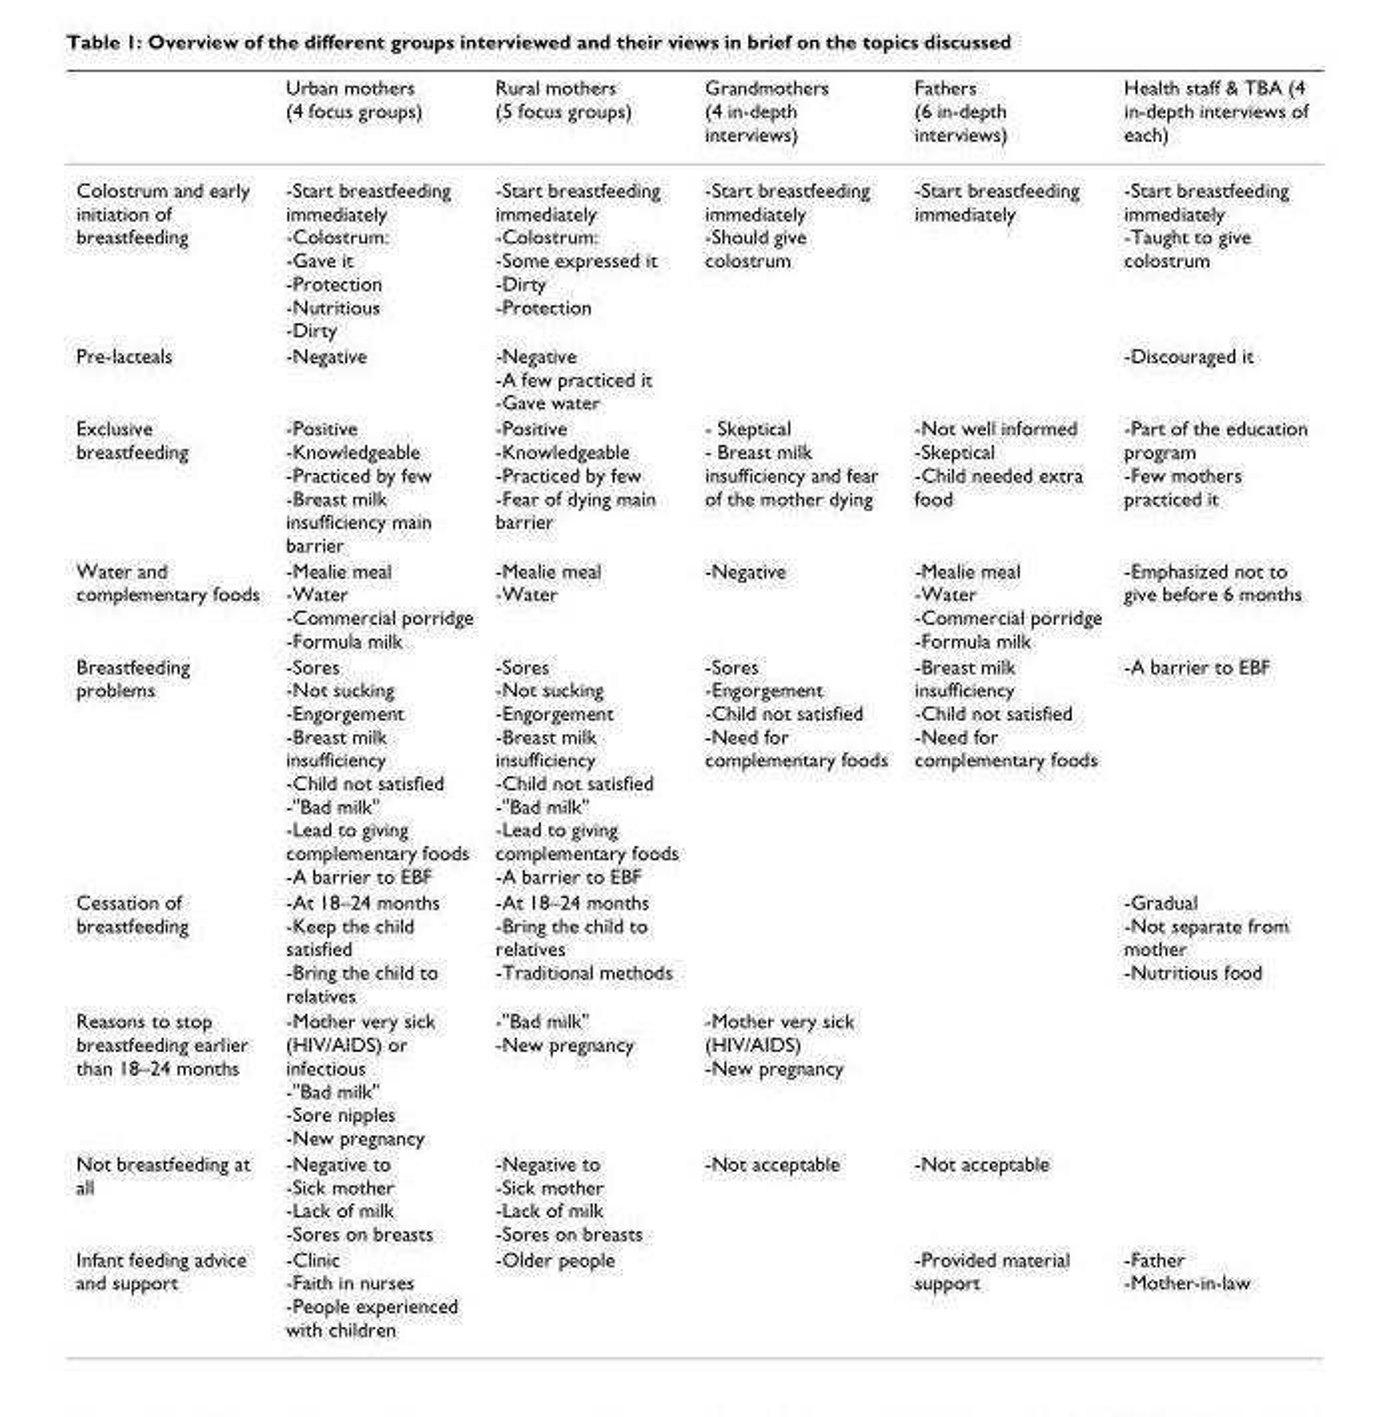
<table><thead><tr><td></td><td>Urban mothers (4 focus groups)</td><td>Rural mothers (5 focus groups)</td><td>Grandmothers (4 in-depth interviews)</td><td>Fathers (6 in-depth interviews)</td><td>Health staff &amp; TBA (4 in-depth interviews of each)</td></tr></thead><tbody><tr><td>Colostrum and early initiation of breastfeeding</td><td>-Start breastfeeding immediately -Colostrum: -Gave it -Protection -Nutritious -Dirty</td><td>-Start breastfeeding immediately -Colostrum: -Some expressed it -Dirty -Protection</td><td>-Start breastfeeding immediately -Should give colostrum</td><td>-Start breastfeeding immediately</td><td>-Start breastfeeding immediately -Taught to give colostrum</td></tr><tr><td>Pre-lacteals</td><td>-Negative</td><td>-Negative -A few practiced it -Gave water</td><td></td><td></td><td>-Discouraged it</td></tr><tr><td>Exclusive breastfeeding</td><td>-Positive -Knowledgeable -Practiced by few -Breast milk insufficiency main barrier</td><td>-Positive -Knowledgeable -Practiced by few -Fear of dying main barrier</td><td>- Skeptical - Breast milk insufficiency and fear of the mother dying</td><td>-Not well informed -Skeptical -Child needed extra food</td><td>-Part of the education program -Few mothers practiced it</td></tr><tr><td>Water and complementary foods</td><td>-Mealie meal -Water -Commercial porridge -Formula milk</td><td>-Mealie meal -Water</td><td>-Negative</td><td>-Mealie meal -Water -Commercial porridge -Formula milk</td><td>-Emphasized not to give before 6 months</td></tr><tr><td>Breastfeeding problems</td><td>-Sores -Not sucking -Engorgement -Breast milk insufficiency -Child not satisfied -&quot;Bad milk&quot; -Lead to giving complementary foods -A barrier to EBF</td><td>-Sores -Not sucking -Engorgement -Breast milk insufficiency -Child not satisfied -&quot;Bad milk&quot; -Lead to giving complementary foods -A barrier to EBF</td><td>-Sores -Engorgement -Child not satisfied -Need for complementary foods</td><td>-Breast milk insufficiency -Child not satisfied -Need for complementary foods</td><td>-A barrier to EBF</td></tr><tr><td>Cessation of breastfeeding</td><td>-At 18–24 months -Keep the child satisfied -Bring the child to relatives</td><td>-At 18–24 months -Bring the child to relatives -Traditional methods</td><td></td><td></td><td>-Gradual -Not separate from mother -Nutritious food</td></tr><tr><td>Reasons to stop breastfeeding earlier than 18–24 months</td><td>-Mother very sick (HIV/AIDS) or infectious -&quot;Bad milk&quot; -Sore nipples -New pregnancy</td><td>-&quot;Bad milk&quot; -New pregnancy</td><td>-Mother very sick (HIV/AIDS) -New pregnancy</td><td></td><td></td></tr><tr><td>Not breastfeeding at all</td><td>-Negative to -Sick mother -Lack of milk -Sores on breasts</td><td>-Negative to -Sick mother -Lack of milk -Sores on breasts</td><td>-Not acceptable</td><td>-Not acceptable</td><td></td></tr><tr><td>Infant feeding advice and support</td><td>-Clinic -Faith in nurses -People experienced with children</td><td>-Older people</td><td></td><td>-Provided material support</td><td>-Father -Mother-in-law</td></tr></tbody></table>